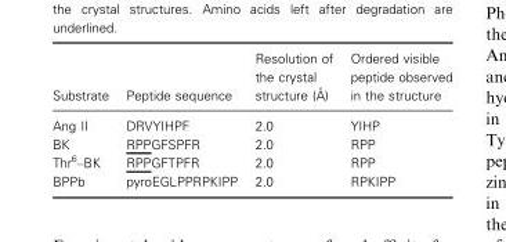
<table><thead><tr><td>Substrate</td><td>Peptide sequence</td><td>Resolution of the crystal structure (A˚ )</td><td>Ordered visible peptide observed in the structure</td></tr></thead><tbody><tr><td>Ang II</td><td>DRVYIHPF</td><td>2.0</td><td>YIHP</td></tr><tr><td>BK</td><td>RPPGFSPFR</td><td>2.0</td><td>RPP</td></tr><tr><td>Thr<sup>6</sup>–BK</td><td>RPPGFTPFR</td><td>2.0</td><td>RPP</td></tr><tr><td>BPPb</td><td>pyroEGLPPRPKIPP</td><td>2.0</td><td>RPKIPP</td></tr></tbody></table>